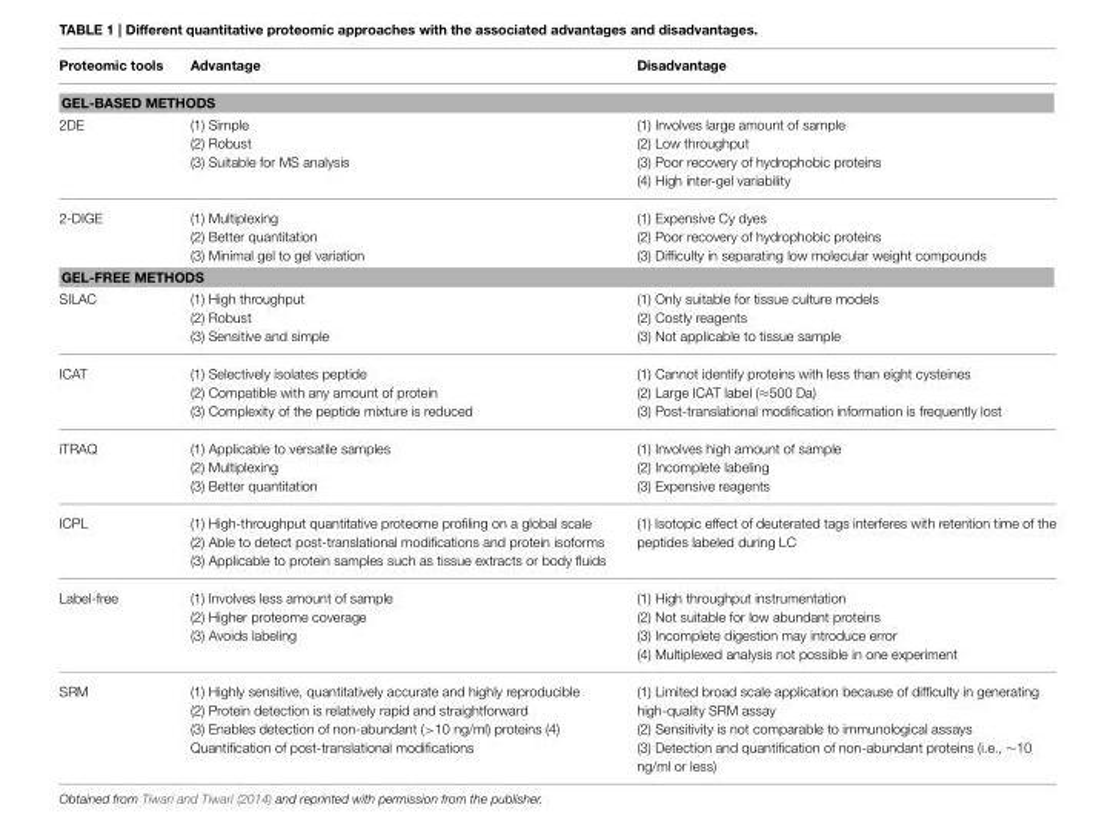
<table><thead><tr><td>Proteomic tools</td><td>Advantage</td><td>Disadvantage</td></tr></thead><tbody><tr><td colspan="3">GEL-BASED METHODS</td></tr><tr><td>2DE</td><td>(1) Simple (2) Robust (3) Suitable for MS analysis</td><td>(1) Involves large amount of sample (2) Low throughput (3) Poor recovery of hydrophobic proteins (4) High inter-gel variability</td></tr><tr><td>2-DIGE</td><td>(1) Multiplexing (2) Better quantitation (3) Minimal gel to gel variation</td><td>(1) Expensive Cy dyes (2) Poor recovery of hydrophobic proteins (3) Difficulty in separating low molecular weight compounds</td></tr><tr><td colspan="3">GEL-FREE METHODS</td></tr><tr><td>SILAC</td><td>(1) High throughput (2) Robust (3) Sensitive and simple</td><td>(1) Only suitable for tissue culture models (2) Costly reagents (3) Not applicable to tissue sample</td></tr><tr><td>ICAT</td><td>(1) Selectively isolates peptide (2) Compatible with any amount of protein (3) Complexity of the peptide mixture is reduced</td><td>(1) Cannot identify proteins with less than eight cysteines (2) Large ICAT label (≈500 Da) (3) Post-translational modification information is frequently lost</td></tr><tr><td>iTRAQ</td><td>(1) Applicable to versatile samples (2) Multiplexing (3) Better quantitation</td><td>(1) Involves high amount of sample (2) Incomplete labeling (3) Expensive reagents</td></tr><tr><td>ICPL</td><td>(1) High-throughput quantitative proteome profiling on a global scale (2) Able to detect post-translational modifications and protein isoforms (3) Applicable to protein samples such as tissue extracts or body fluids</td><td>(1) Isotopic effect of deuterated tags interferes with retention time of the peptides labeled during LC</td></tr><tr><td>Label-free</td><td>(1) Involves less amount of sample (2) Higher proteome coverage (3) Avoids labeling</td><td>(1) High throughput instrumentation (2) Not suitable for low abundant proteins (3) Incomplete digestion may introduce error (4) Multiplexed analysis not possible in one experiment</td></tr><tr><td>SRM</td><td>(1) Highly sensitive, quantitatively accurate and highly reproducible (2) Protein detection is relatively rapid and straightforward (3) Enables detection of non-abundant (&gt;10 ng/ml) proteins (4) Quantification of post-translational modifications</td><td>(1) Limited broad scale application because of difficulty in generating high-quality SRM assay (2) Sensitivity is not comparable to immunological assays (3) Detection and quantification of non-abundant proteins (i.e., ∼10 ng/ml or less)</td></tr></tbody></table>